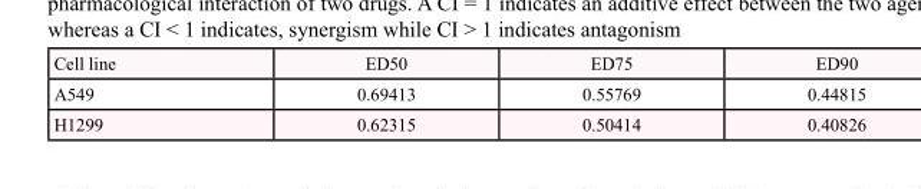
<table><thead><tr><td>Cell line</td><td>ED50</td><td>ED75</td><td>ED90</td></tr></thead><tbody><tr><td>A549</td><td>0.69413</td><td>0.55769</td><td>0.44815</td></tr><tr><td>H1299</td><td>0.62315</td><td>0.50414</td><td>0.40826</td></tr></tbody></table>